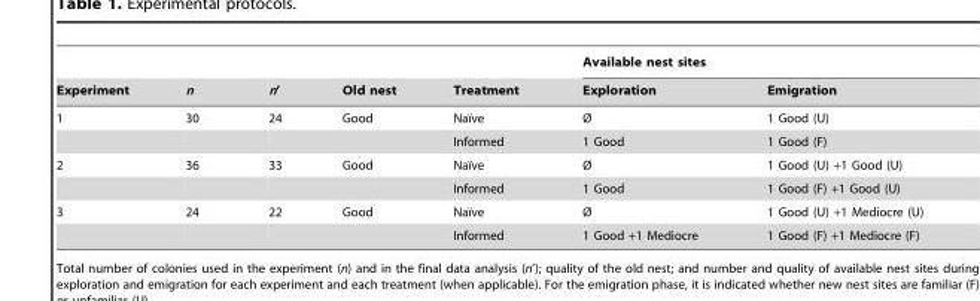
<table><thead><tr><td rowspan="2">Experiment</td><td rowspan="2">n</td><td rowspan="2">n’</td><td rowspan="2">Old nest</td><td rowspan="2">Treatment</td><td colspan="2">Available nest sites</td></tr><tr><td>Exploration</td><td>Emigration</td></tr></thead><tbody><tr><td rowspan="2">1</td><td>30</td><td>24</td><td>Good</td><td>Naı¨ve</td><td>Ø</td><td>1 Good (U)</td></tr><tr><td></td><td></td><td></td><td>Informed</td><td>1 Good</td><td>1 Good (F)</td></tr><tr><td rowspan="2">2</td><td>36</td><td>33</td><td>Good</td><td>Naı¨ve</td><td>Ø</td><td>1 Good (U) +1 Good (U)</td></tr><tr><td></td><td></td><td></td><td>Informed</td><td>1 Good</td><td>1 Good (F) +1 Good (U)</td></tr><tr><td rowspan="2">3</td><td>24</td><td>22</td><td>Good</td><td>Naı¨ve</td><td>Ø</td><td>1 Good (U) +1 Mediocre (U)</td></tr><tr><td></td><td></td><td></td><td>Informed</td><td>1 Good +1 Mediocre</td><td>1 Good (F) +1 Mediocre (F)</td></tr></tbody></table>